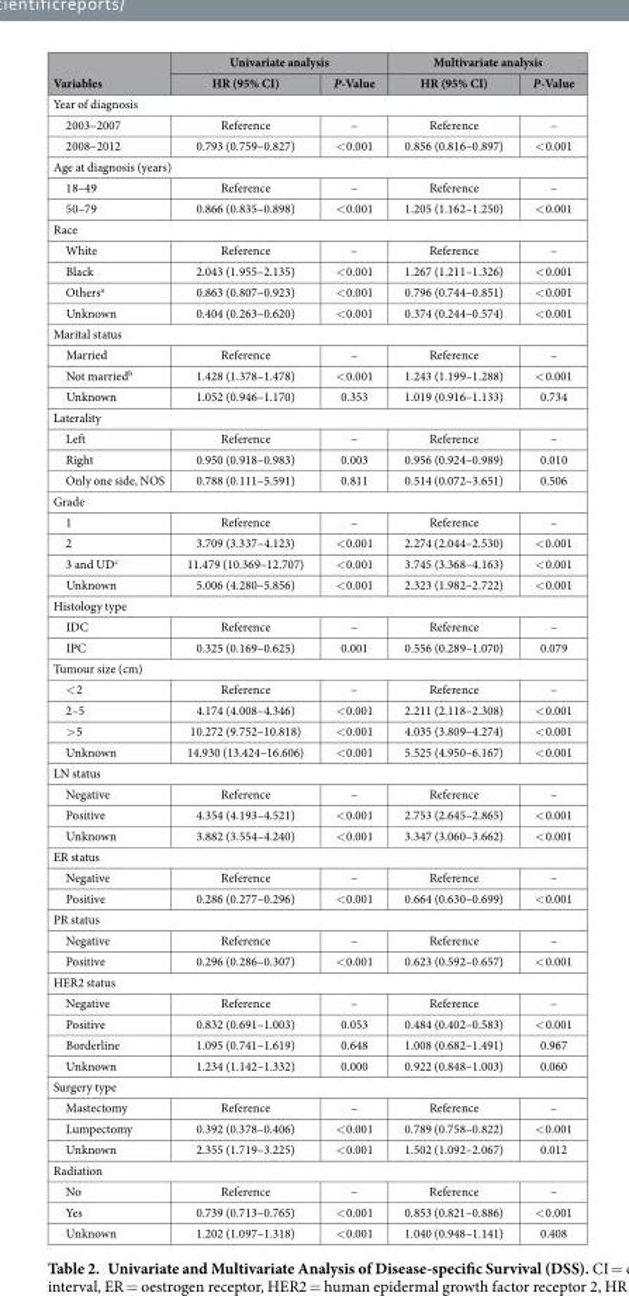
<table><thead><tr><td rowspan="2">Variables</td><td colspan="2">Univariate analysis</td><td colspan="2">Multivariate analysis</td></tr><tr><td>HR (95% CI)</td><td>P-Value</td><td>HR (95% CI)</td><td>P-Value</td></tr></thead><tbody><tr><td colspan="5">Year of diagnosis</td></tr><tr><td>2003–2007</td><td>Reference</td><td>–</td><td>Reference</td><td>–</td></tr><tr><td>2008–2012</td><td>0.793 (0.759–0.827)</td><td>&lt; 0.001</td><td>0.856 (0.816–0.897)</td><td>&lt; 0.001</td></tr><tr><td colspan="5">Age at diagnosis (years)</td></tr><tr><td>18–49</td><td>Reference</td><td>–</td><td>Reference</td><td>–</td></tr><tr><td>50–79</td><td>0.866 (0.835–0.898)</td><td>&lt; 0.001</td><td>1.205 (1.162–1.250)</td><td>&lt; 0.001</td></tr><tr><td colspan="5">Race</td></tr><tr><td>White</td><td>Reference</td><td>–</td><td>Reference</td><td>–</td></tr><tr><td>Black</td><td>2.043 (1.955–2.135)</td><td>&lt; 0.001</td><td>1.267 (1.211–1.326)</td><td>&lt; 0.001</td></tr><tr><td>Others<sup>a</sup></td><td>0.863 (0.807–0.923)</td><td>&lt; 0.001</td><td>0.796 (0.744–0.851)</td><td>&lt; 0.001</td></tr><tr><td>Unknown</td><td>0.404 (0.263–0.620)</td><td>&lt; 0.001</td><td>0.374 (0.244–0.574)</td><td>&lt; 0.001</td></tr><tr><td colspan="5">Marital status</td></tr><tr><td>Married</td><td>Reference</td><td>–</td><td>Reference</td><td>–</td></tr><tr><td>Not married<sup>b</sup></td><td>1.428 (1.378–1.478)</td><td>&lt; 0.001</td><td>1.243 (1.199–1.288)</td><td>&lt; 0.001</td></tr><tr><td>Unknown</td><td>1.052 (0.946–1.170)</td><td>0.353</td><td>1.019 (0.916–1.133)</td><td>0.734</td></tr><tr><td colspan="5">Laterality</td></tr><tr><td>Left</td><td>Reference</td><td>–</td><td>Reference</td><td>–</td></tr><tr><td>Right</td><td>0.950 (0.918–0.983)</td><td>0.003</td><td>0.956 (0.924–0.989)</td><td>0.010</td></tr><tr><td>Only one side, NOS</td><td>0.788 (0.111–5.591)</td><td>0.811</td><td>0.514 (0.072–3.651)</td><td>0.506</td></tr><tr><td colspan="5">Grade</td></tr><tr><td>1</td><td>Reference</td><td>–</td><td>Reference</td><td>–</td></tr><tr><td>2</td><td>3.709 (3.337–4.123)</td><td>&lt; 0.001</td><td>2.274 (2.044–2.530)</td><td>&lt; 0.001</td></tr><tr><td>3 and UD<sup>c</sup></td><td>11.479 (10.369–12.707)</td><td>&lt; 0.001</td><td>3.745 (3.368–4.163)</td><td>&lt; 0.001</td></tr><tr><td>Unknown</td><td>5.006 (4.280–5.856)</td><td>&lt; 0.001</td><td>2.323 (1.982–2.722)</td><td>&lt; 0.001</td></tr><tr><td colspan="5">Histology type</td></tr><tr><td>IDC</td><td>Reference</td><td>–</td><td>Reference</td><td>–</td></tr><tr><td>IPC</td><td>0.325 (0.169–0.625)</td><td>0.001</td><td>0.556 (0.289–1.070)</td><td>0.079</td></tr><tr><td colspan="5">Tumour size (cm)</td></tr><tr><td>&lt; 2</td><td>Reference</td><td>–</td><td>Reference</td><td>–</td></tr><tr><td>2–5</td><td>4.174 (4.008–4.346)</td><td>&lt; 0.001</td><td>2.211 (2.118–2.308)</td><td>&lt; 0.001</td></tr><tr><td>&gt; 5</td><td>10.272 (9.752–10.818)</td><td>&lt; 0.001</td><td>4.035 (3.809–4.274)</td><td>&lt; 0.001</td></tr><tr><td>Unknown</td><td>14.930 (13.424–16.606)</td><td>&lt; 0.001</td><td>5.525 (4.950–6.167)</td><td>&lt; 0.001</td></tr><tr><td colspan="5">LN status</td></tr><tr><td>Negative</td><td>Reference</td><td>–</td><td>Reference</td><td>–</td></tr><tr><td>Positive</td><td>4.354 (4.193–4.521)</td><td>&lt; 0.001</td><td>2.753 (2.645–2.865)</td><td>&lt; 0.001</td></tr><tr><td>Unknown</td><td>3.882 (3.554–4.240)</td><td>&lt; 0.001</td><td>3.347 (3.060–3.662)</td><td>&lt; 0.001</td></tr><tr><td colspan="5">ER status</td></tr><tr><td>Negative</td><td>Reference</td><td>–</td><td>Reference</td><td>–</td></tr><tr><td>Positive</td><td>0.286 (0.277–0.296)</td><td>&lt; 0.001</td><td>0.664 (0.630–0.699)</td><td>&lt; 0.001</td></tr><tr><td colspan="5">PR status</td></tr><tr><td>Negative</td><td>Reference</td><td>–</td><td>Reference</td><td>–</td></tr><tr><td>Positive</td><td>0.296 (0.286–0.307)</td><td>&lt; 0.001</td><td>0.623 (0.592–0.657)</td><td>&lt; 0.001</td></tr><tr><td colspan="5">HER2 status</td></tr><tr><td>Negative</td><td>Reference</td><td>–</td><td>Reference</td><td>–</td></tr><tr><td>Positive</td><td>0.832 (0.691–1.003)</td><td>0.053</td><td>0.484 (0.402–0.583)</td><td>&lt; 0.001</td></tr><tr><td>Borderline</td><td>1.095 (0.741–1.619)</td><td>0.648</td><td>1.008 (0.682–1.491)</td><td>0.967</td></tr><tr><td>Unknown</td><td>1.234 (1.142–1.332)</td><td>0.000</td><td>0.922 (0.848–1.003)</td><td>0.060</td></tr><tr><td colspan="5">Surgery type</td></tr><tr><td>Mastectomy</td><td>Reference</td><td>–</td><td>Reference</td><td>–</td></tr><tr><td>Lumpectomy</td><td>0.392 (0.378–0.406)</td><td>&lt; 0.001</td><td>0.789 (0.758–0.822)</td><td>&lt; 0.001</td></tr><tr><td>Unknown</td><td>2.355 (1.719–3.225)</td><td>&lt; 0.001</td><td>1.502 (1.092–2.067)</td><td>0.012</td></tr><tr><td colspan="5">Radiation</td></tr><tr><td>No</td><td>Reference</td><td>–</td><td>Reference</td><td>–</td></tr><tr><td>Yes</td><td>0.739 (0.713–0.765)</td><td>&lt; 0.001</td><td>0.853 (0.821–0.886)</td><td>&lt; 0.001</td></tr><tr><td>Unknown</td><td>1.202 (1.097–1.318)</td><td>&lt; 0.001</td><td>1.040 (0.948–1.141)</td><td>0.408</td></tr></tbody></table>